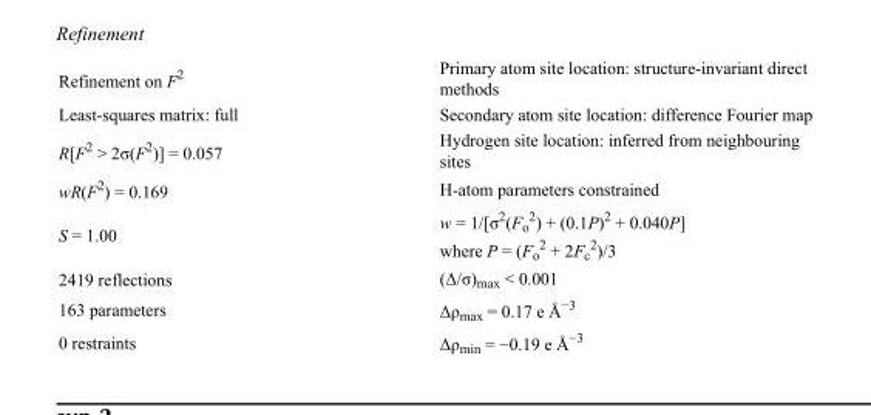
<table><tbody><tr><td>Refinement on F<sup>2</sup></td><td>Primary atom site location: structure-invariant direct methods</td></tr><tr><td>Least-squares matrix: full</td><td>Secondary atom site location: difference Fourier map</td></tr><tr><td>R[F<sup>2</sup> &gt; 2σ(F<sup>2</sup>)] = 0.057</td><td>Hydrogen site location: inferred from neighbouring sites</td></tr><tr><td>wR(F<sup>2</sup>) = 0.169</td><td>H-atom parameters constrained</td></tr><tr><td>S = 1.00</td><td>w = 1/[σ<sup>2</sup>(F<sub>o</sub> <sup>2</sup>) + (0.1P)<sup>2</sup> + 0.040P] where P = (F<sub>o</sub> <sup>2</sup> + 2F<sub>c</sub> <sup>2</sup>)/3</td></tr><tr><td>2419 reflections</td><td>(Δ/σ)<sub>max</sub> &lt; 0.001</td></tr><tr><td>163 parameters</td><td>Δρ<sub>max</sub> = 0.17 e Å<sup>−3</sup></td></tr><tr><td>0 restraints</td><td>Δρ<sub>min</sub> = −0.19 e Å<sup>−3</sup></td></tr></tbody></table>